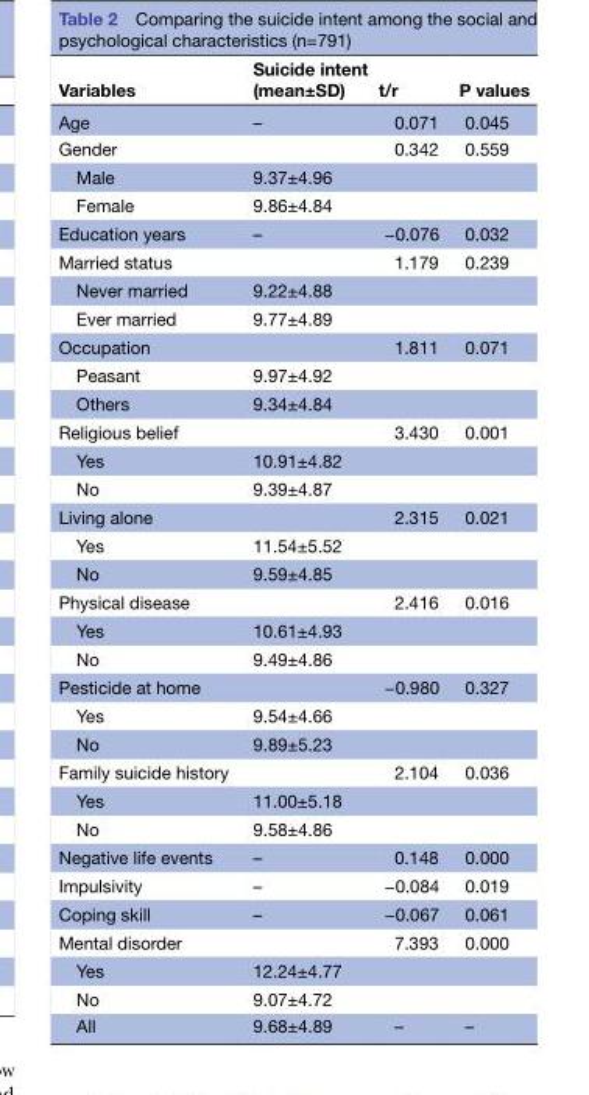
<table><thead><tr><td>Variables</td><td>Suicide intent (mean±SD)</td><td>t/r</td><td>P values</td></tr></thead><tbody><tr><td>Age</td><td>–</td><td>0.071</td><td>0.045</td></tr><tr><td>Gender</td><td></td><td>0.342</td><td>0.559</td></tr><tr><td>Male</td><td>9.37±4.96</td><td></td><td></td></tr><tr><td>Female</td><td>9.86±4.84</td><td></td><td></td></tr><tr><td>Education years</td><td>–</td><td>−0.076</td><td>0.032</td></tr><tr><td>Married status</td><td></td><td>1.179</td><td>0.239</td></tr><tr><td>Never married</td><td>9.22±4.88</td><td></td><td></td></tr><tr><td>Ever married</td><td>9.77±4.89</td><td></td><td></td></tr><tr><td>Occupation</td><td></td><td>1.811</td><td>0.071</td></tr><tr><td>Peasant</td><td>9.97±4.92</td><td></td><td></td></tr><tr><td>Others</td><td>9.34±4.84</td><td></td><td></td></tr><tr><td>Religious belief</td><td></td><td>3.430</td><td>0.001</td></tr><tr><td>Yes</td><td>10.91±4.82</td><td></td><td></td></tr><tr><td>No</td><td>9.39±4.87</td><td></td><td></td></tr><tr><td>Living alone</td><td></td><td>2.315</td><td>0.021</td></tr><tr><td>Yes</td><td>11.54±5.52</td><td></td><td></td></tr><tr><td>No</td><td>9.59±4.85</td><td></td><td></td></tr><tr><td>Physical disease</td><td></td><td>2.416</td><td>0.016</td></tr><tr><td>Yes</td><td>10.61±4.93</td><td></td><td></td></tr><tr><td>No</td><td>9.49±4.86</td><td></td><td></td></tr><tr><td>Pesticide at home</td><td></td><td>−0.980</td><td>0.327</td></tr><tr><td>Yes</td><td>9.54±4.66</td><td></td><td></td></tr><tr><td>No</td><td>9.89±5.23</td><td></td><td></td></tr><tr><td>Family suicide history</td><td></td><td>2.104</td><td>0.036</td></tr><tr><td>Yes</td><td>11.00±5.18</td><td></td><td></td></tr><tr><td>No</td><td>9.58±4.86</td><td></td><td></td></tr><tr><td>Negative life events</td><td>–</td><td>0.148</td><td>0.000</td></tr><tr><td>Impulsivity</td><td>–</td><td>−0.084</td><td>0.019</td></tr><tr><td>Coping skill</td><td>–</td><td>−0.067</td><td>0.061</td></tr><tr><td>Mental disorder</td><td></td><td>7.393</td><td>0.000</td></tr><tr><td>Yes</td><td>12.24±4.77</td><td></td><td></td></tr><tr><td>No</td><td>9.07±4.72</td><td></td><td></td></tr><tr><td>All</td><td>9.68±4.89</td><td>–</td><td>–</td></tr></tbody></table>